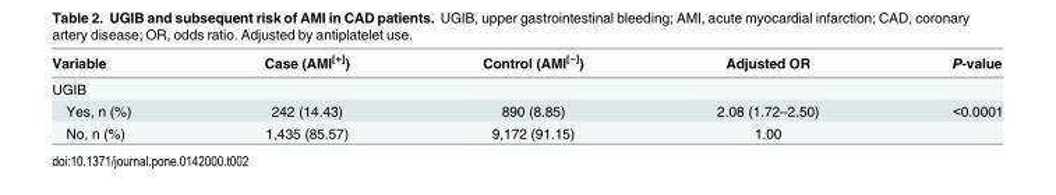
<table><thead><tr><td>Variable</td><td>Case (AMI<sup>[+]</sup>)</td><td>Control (AMI<sup>[−]</sup>)</td><td>Adjusted OR</td><td>P-value</td></tr></thead><tbody><tr><td colspan="5">UGIB</td></tr><tr><td>Yes, n (%)</td><td>242 (14.43)</td><td>890 (8.85)</td><td>2.08 (1.72–2.50)</td><td>&lt;0.0001</td></tr><tr><td>No, n (%)</td><td>1,435 (85.57)</td><td>9,172 (91.15)</td><td>1.00</td><td></td></tr></tbody></table>